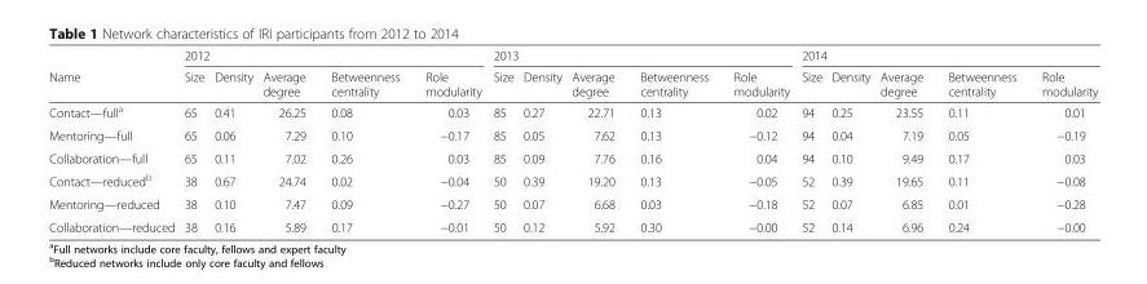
<table><thead><tr><td rowspan="2">Name</td><td colspan="5">2012</td><td colspan="5">2013</td><td colspan="5">2014</td></tr><tr><td>Size</td><td>Density</td><td>Average degree</td><td>Betweenness centrality</td><td>Role modularity</td><td>Size</td><td>Density</td><td>Average degree</td><td>Betweenness centrality</td><td>Role modularity</td><td>Size</td><td>Density</td><td>Average degree</td><td>Betweenness centrality</td><td>Role modularity</td></tr></thead><tbody><tr><td>Contact—full<sup>a</sup></td><td>65</td><td>0.41</td><td>26.25</td><td>0.08</td><td>0.03</td><td>85</td><td>0.27</td><td>22.71</td><td>0.13</td><td>0.02</td><td>94</td><td>0.25</td><td>23.55</td><td>0.11</td><td>0.01</td></tr><tr><td>Mentoring—full</td><td>65</td><td>0.06</td><td>7.29</td><td>0.10</td><td>−0.17</td><td>85</td><td>0.05</td><td>7.62</td><td>0.13</td><td>−0.12</td><td>94</td><td>0.04</td><td>7.19</td><td>0.05</td><td>−0.19</td></tr><tr><td>Collaboration—full</td><td>65</td><td>0.11</td><td>7.02</td><td>0.26</td><td>0.03</td><td>85</td><td>0.09</td><td>7.76</td><td>0.16</td><td>0.04</td><td>94</td><td>0.10</td><td>9.49</td><td>0.17</td><td>0.03</td></tr><tr><td>Contact—reduced<sup>b</sup></td><td>38</td><td>0.67</td><td>24.74</td><td>0.02</td><td>−0.04</td><td>50</td><td>0.39</td><td>19.20</td><td>0.13</td><td>−0.05</td><td>52</td><td>0.39</td><td>19.65</td><td>0.11</td><td>−0.08</td></tr><tr><td>Mentoring—reduced</td><td>38</td><td>0.10</td><td>7.47</td><td>0.09</td><td>−0.27</td><td>50</td><td>0.07</td><td>6.68</td><td>0.03</td><td>−0.18</td><td>52</td><td>0.07</td><td>6.85</td><td>0.01</td><td>−0.28</td></tr><tr><td>Collaboration—reduced</td><td>38</td><td>0.16</td><td>5.89</td><td>0.17</td><td>−0.01</td><td>50</td><td>0.12</td><td>5.92</td><td>0.30</td><td>−0.00</td><td>52</td><td>0.14</td><td>6.96</td><td>0.24</td><td>−0.00</td></tr></tbody></table>